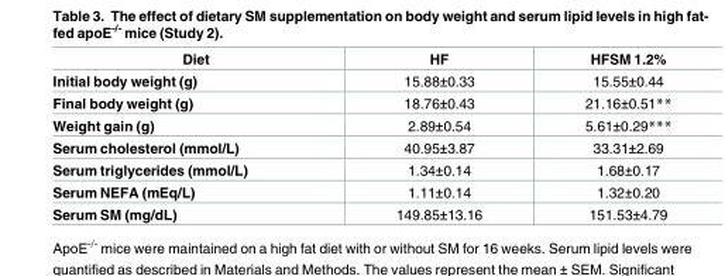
<table><thead><tr><td>Diet</td><td>HF</td><td>HFSM 1.2%</td></tr></thead><tbody><tr><td>Initial body weight (g)</td><td>15.88±0.33</td><td>15.55±0.44</td></tr><tr><td>Final body weight (g)</td><td>18.76±0.43</td><td>21.16±0.51**</td></tr><tr><td>Weight gain (g)</td><td>2.89±0.54</td><td>5.61±0.29***</td></tr><tr><td>Serum cholesterol (mmol/L)</td><td>40.95±3.87</td><td>33.31±2.69</td></tr><tr><td>Serum triglycerides (mmol/L)</td><td>1.34±0.14</td><td>1.68±0.17</td></tr><tr><td>Serum NEFA (mEq/L)</td><td>1.11±0.14</td><td>1.32±0.20</td></tr><tr><td>Serum SM (mg/dL)</td><td>149.85±13.16</td><td>151.53±4.79</td></tr></tbody></table>